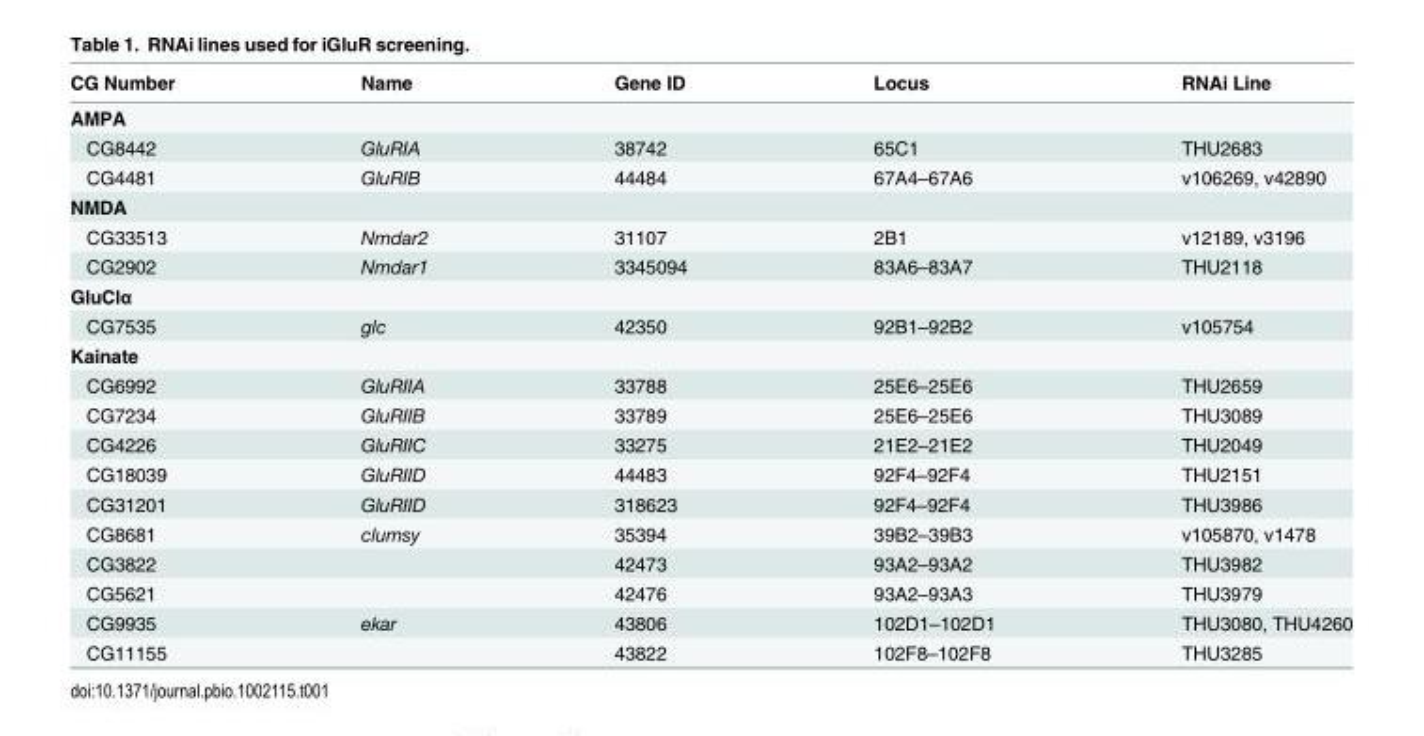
<table><thead><tr><td>CG Number</td><td>Name</td><td>Gene ID</td><td>Locus</td><td>RNAi Line</td></tr></thead><tbody><tr><td colspan="5">AMPA</td></tr><tr><td>CG8442</td><td>GluRIA</td><td>38742</td><td>65C1</td><td>THU2683</td></tr><tr><td>CG4481</td><td>GluRIB</td><td>44484</td><td>67A4–67A6</td><td>v106269, v42890</td></tr><tr><td colspan="5">NMDA</td></tr><tr><td>CG33513</td><td>Nmdar2</td><td>31107</td><td>2B1</td><td>v12189, v3196</td></tr><tr><td>CG2902</td><td>Nmdar1</td><td>3345094</td><td>83A6–83A7</td><td>THU2118</td></tr><tr><td colspan="5">GluClα</td></tr><tr><td>CG7535</td><td>glc</td><td>42350</td><td>92B1–92B2</td><td>v105754</td></tr><tr><td colspan="5">Kainate</td></tr><tr><td>CG6992</td><td>GluRIIA</td><td>33788</td><td>25E6–25E6</td><td>THU2659</td></tr><tr><td>CG7234</td><td>GluRIIB</td><td>33789</td><td>25E6–25E6</td><td>THU3089</td></tr><tr><td>CG4226</td><td>GluRIIC</td><td>33275</td><td>21E2–21E2</td><td>THU2049</td></tr><tr><td>CG18039</td><td>GluRIID</td><td>44483</td><td>92F4–92F4</td><td>THU2151</td></tr><tr><td>CG31201</td><td>GluRIID</td><td>318623</td><td>92F4–92F4</td><td>THU3986</td></tr><tr><td>CG8681</td><td>clumsy</td><td>35394</td><td>39B2–39B3</td><td>v105870, v1478</td></tr><tr><td>CG3822</td><td></td><td>42473</td><td>93A2–93A2</td><td>THU3982</td></tr><tr><td>CG5621</td><td></td><td>42476</td><td>93A2–93A3</td><td>THU3979</td></tr><tr><td>CG9935</td><td>ekar</td><td>43806</td><td>102D1–102D1</td><td>THU3080, THU4260</td></tr><tr><td>CG11155</td><td></td><td>43822</td><td>102F8–102F8</td><td>THU3285</td></tr></tbody></table>